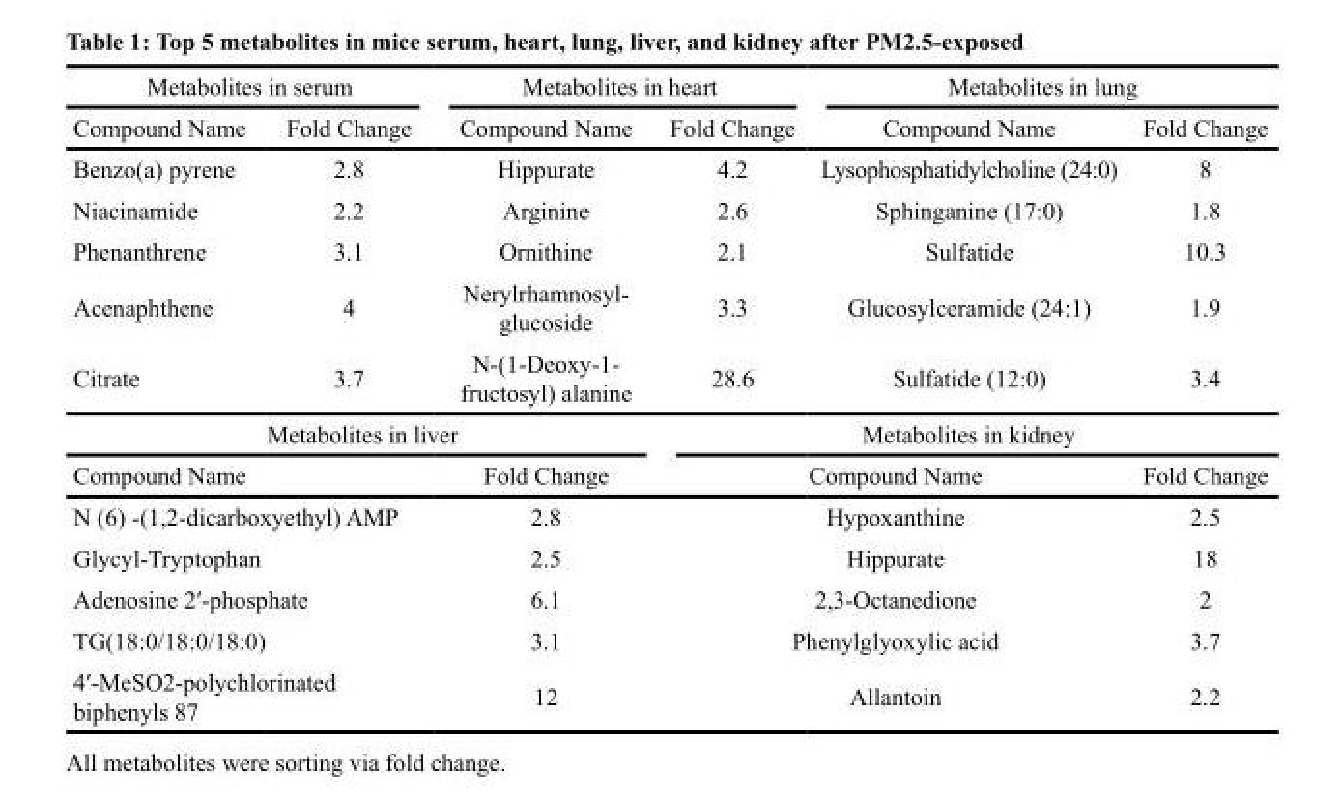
<table><thead><tr><td colspan="2">Metabolites in serum</td><td colspan="2">Metabolites in heart</td><td colspan="2">Metabolites in lung</td></tr><tr><td>Compound Name</td><td>Fold Change</td><td>Compound Name</td><td>Fold Change</td><td>Compound Name</td><td>Fold Change</td></tr></thead><tbody><tr><td>Benzo(a) pyrene</td><td>2.8</td><td>Hippurate</td><td>4.2</td><td>Lysophosphatidylcholine (24:0)</td><td>8</td></tr><tr><td>Niacinamide</td><td>2.2</td><td>Arginine</td><td>2.6</td><td>Sphinganine (17:0)</td><td>1.8</td></tr><tr><td>Phenanthrene</td><td>3.1</td><td>Ornithine</td><td>2.1</td><td>Sulfatide</td><td>10.3</td></tr><tr><td>Acenaphthene</td><td>4</td><td>Nerylrhamnosyl- glucoside</td><td>3.3</td><td>Glucosylceramide (24:1)</td><td>1.9</td></tr><tr><td>Citrate</td><td>3.7</td><td>N-(1-Deoxy-1- fructosyl) alanine</td><td>28.6</td><td>Sulfatide (12:0)</td><td>3.4</td></tr><tr><td colspan="3">Metabolites in liver</td><td colspan="3">Metabolites in kidney</td></tr><tr><td colspan="2">Compound Name</td><td>Fold Change</td><td colspan="2">Compound Name</td><td>Fold Change</td></tr><tr><td colspan="2">N (6) -(1,2-dicarboxyethyl) AMP</td><td>2.8</td><td colspan="2">Hypoxanthine</td><td>2.5</td></tr><tr><td colspan="2">Glycyl-Tryptophan</td><td>2.5</td><td colspan="2">Hippurate</td><td>18</td></tr><tr><td colspan="2">Adenosine 2′-phosphate</td><td>6.1</td><td colspan="2">2,3-Octanedione</td><td>2</td></tr><tr><td colspan="2">TG(18:0/18:0/18:0)</td><td>3.1</td><td colspan="2">Phenylglyoxylic acid</td><td>3.7</td></tr><tr><td colspan="2">4′-MeSO2-polychlorinated biphenyls 87</td><td>12</td><td colspan="2">Allantoin</td><td>2.2</td></tr></tbody></table>